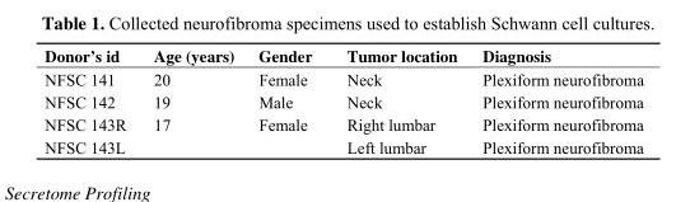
<table><thead><tr><td>Donor’s id</td><td>Age (years)</td><td>Gender</td><td>Tumor location</td><td>Diagnosis</td></tr></thead><tbody><tr><td>NFSC 141</td><td>20</td><td>Female</td><td>Neck</td><td>Plexiform neurofibroma</td></tr><tr><td>NFSC 142</td><td>19</td><td>Male</td><td>Neck</td><td>Plexiform neurofibroma</td></tr><tr><td>NFSC 143R</td><td>17</td><td>Female</td><td>Right lumbar</td><td>Plexiform neurofibroma</td></tr><tr><td>NFSC 143L</td><td></td><td></td><td>Left lumbar</td><td>Plexiform neurofibroma</td></tr></tbody></table>